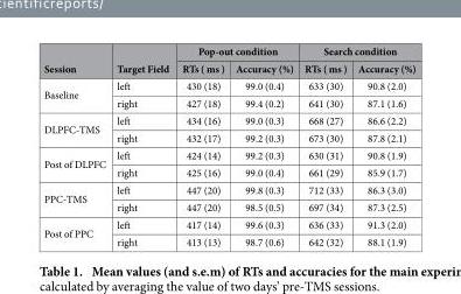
<table><thead><tr><td rowspan="2">Session</td><td rowspan="2">Target Field</td><td colspan="2">Pop-out condition</td><td colspan="2">Search condition</td></tr><tr><td>RTs ( ms )</td><td>Accuracy (%)</td><td>RTs ( ms )</td><td>Accuracy (%)</td></tr></thead><tbody><tr><td rowspan="2">Baseline</td><td>left</td><td>430 (18)</td><td>99.0 (0.4)</td><td>633 (30)</td><td>90.8 (2.0)</td></tr><tr><td>right</td><td>427 (18)</td><td>99.4 (0.2)</td><td>641 (30)</td><td>87.1 (1.6)</td></tr><tr><td rowspan="2">DLPFC-TMS</td><td>left</td><td>434 (16)</td><td>99.0 (0.3)</td><td>668 (27)</td><td>86.6 (2.2)</td></tr><tr><td>right</td><td>432 (17)</td><td>99.2 (0.3)</td><td>673 (30)</td><td>87.8 (2.1)</td></tr><tr><td rowspan="2">Post of DLPFC</td><td>left</td><td>424 (14)</td><td>99.2 (0.3)</td><td>630 (31)</td><td>90.8 (1.9)</td></tr><tr><td>right</td><td>425 (16)</td><td>99.0 (0.4)</td><td>661 (29)</td><td>85.9 (1.7)</td></tr><tr><td rowspan="2">PPC-TMS</td><td>left</td><td>447 (20)</td><td>99.8 (0.3)</td><td>712 (33)</td><td>86.3 (3.0)</td></tr><tr><td>right</td><td>447 (20)</td><td>98.5 (0.5)</td><td>697 (34)</td><td>87.3 (2.5)</td></tr><tr><td rowspan="2">Post of PPC</td><td>left</td><td>417 (14)</td><td>99.6 (0.3)</td><td>636 (33)</td><td>91.3 (2.0)</td></tr><tr><td>right</td><td>413 (13)</td><td>98.7 (0.6)</td><td>642 (32)</td><td>88.1 (1.9)</td></tr></tbody></table>